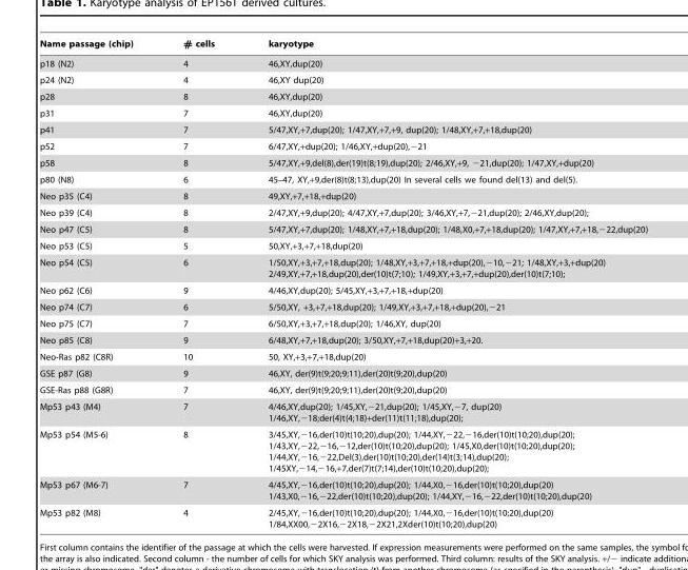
<table><thead><tr><td>Name passage (chip)</td><td># cells</td><td>karyotype</td></tr></thead><tbody><tr><td>p18 (N2)</td><td>4</td><td>46,XY,dup(20)</td></tr><tr><td>p24 (N2)</td><td>4</td><td>46,XY dup(20)</td></tr><tr><td>p28</td><td>8</td><td>46,XY,dup(20)</td></tr><tr><td>p31</td><td>7</td><td>46,XY,dup(20)</td></tr><tr><td>p41</td><td>7</td><td>5/47,XY,+7,dup(20); 1/47,XY,+7,+9, dup(20); 1/48,XY,+7,+18,dup(20)</td></tr><tr><td>p52</td><td>7</td><td>6/47,XY,+dup(20); 1/46,XY,+dup(20),−21</td></tr><tr><td>p58</td><td>8</td><td>5/47,XY,+9,del(8),der(19)t(8;19),dup(20); 2/46,XY,+9, −21,dup(20); 1/47,XY,+dup(20)</td></tr><tr><td>p80 (N8)</td><td>6</td><td>45–47, XY,+9,der(8)t(8;13),dup(20) In several cells we found del(13) and del(5).</td></tr><tr><td>Neo p35 (C4)</td><td>8</td><td>49,XY,+7,+18,+dup(20)</td></tr><tr><td>Neo p39 (C4)</td><td>8</td><td>2/47,XY,+9,dup(20); 4/47,XY,+7,dup(20); 3/46,XY,+7,−21,dup(20); 2/46,XY,dup(20);</td></tr><tr><td>Neo p47 (C5)</td><td>8</td><td>5/47,XY,+7,dup(20); 1/48,XY,+7,+18,dup(20); 1/48,X0,+7,+18,dup(20); 1/47,XY,+7,+18,−22,dup(20)</td></tr><tr><td>Neo p53 (C5)</td><td>5</td><td>50,XY,+3,+7,+18,dup(20)</td></tr><tr><td>Neo p54 (C5)</td><td>6</td><td>1/50,XY,+3,+7,+18,dup(20); 1/48,XY,+3,+7,+18,+dup(20),−10,−21; 1/48,XY,+3,+dup(20) 2/49,XY,+7,+18,dup(20),der(10)t(7;10); 1/49,XY,+3,+7,+dup(20),der(10)t(7;10);</td></tr><tr><td>Neo p62 (C6)</td><td>9</td><td>4/46,XY,dup(20); 5/45,XY,+3,+7,+18,+dup(20)</td></tr><tr><td>Neo p74 (C7)</td><td>6</td><td>5/50,XY, +3,+7,+18,dup(20); 1/49,XY,+3,+7,+18,+dup(20),−21</td></tr><tr><td>Neo p75 (C7)</td><td>7</td><td>6/50,XY,+3,+7,+18,dup(20); 1/46,XY, dup(20)</td></tr><tr><td>Neo p85 (C8)</td><td>9</td><td>6/48,XY,+7,+18,dup(20); 3/50,XY,+7,+18,dup(20)+3,+20.</td></tr><tr><td>Neo-Ras p82 (C8R)</td><td>10</td><td>50, XY,+3,+7,+18,dup(20)</td></tr><tr><td>GSE p87 (G8)</td><td>9</td><td>46,XY, der(9)t(9;20;9;11),der(20)t(9;20),dup(20)</td></tr><tr><td>GSE-Ras p88 (G8R)</td><td>7</td><td>46,XY, der(9)t(9;20;9;11),der(20)t(9;20),dup(20)</td></tr><tr><td>Mp53 p43 (M4)</td><td>7</td><td>4/46,XY,dup(20); 1/45,XY,−21,dup(20); 1/45,XY,−7, dup(20) 1/46,XY,−18;der(4)t(4;18)+der(11)t(11;18),dup(20);</td></tr><tr><td>Mp53 p54 (M5-6)</td><td>8</td><td>3/45,XY,−16,der(10)t(10;20),dup(20); 1/44,XY,−22,−16,der(10)t(10;20),dup(20); 1/43,XY,−22,−16,−12,der(10)t(10;20),dup(20); 1/45,X0,der(10)t(10;20),dup(20); 1/44,XY,−16,−22,Del(3),der(10)t(10;20),der(14)t(3;14),dup(20); 1/45XY,−14,−16,+7,der(7)t(7;14),der(10)t(10;20),dup(20);</td></tr><tr><td>Mp53 p67 (M6-7)</td><td>7</td><td>4/45,XY,−16,der(10)t(10;20),dup(20); 1/44,X0,−16,der(10)t(10;20),dup(20) 1/43,X0,−16,−22,der(10)t(10;20),dup(20); 1/44,XY,−16,−22,der(10)t(10;20),dup(20)</td></tr><tr><td>Mp53 p82 (M8)</td><td>4</td><td>2/45,XY,−16,der(10)t(10;20),dup(20); 1/44,X0,−16,der(10)t(10;20),dup(20) 1/84,XX00,−2X16,−2X18,−2X21,2Xder(10)t(10;20),dup(20)</td></tr></tbody></table>